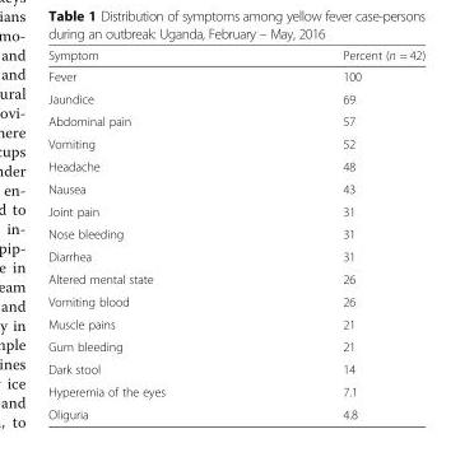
<table><thead><tr><td>Symptom</td><td>Percent (n = 42)</td></tr></thead><tbody><tr><td>Fever</td><td>100</td></tr><tr><td>Jaundice</td><td>69</td></tr><tr><td>Abdominal pain</td><td>57</td></tr><tr><td>Vomiting</td><td>52</td></tr><tr><td>Headache</td><td>48</td></tr><tr><td>Nausea</td><td>43</td></tr><tr><td>Joint pain</td><td>31</td></tr><tr><td>Nose bleeding</td><td>31</td></tr><tr><td>Diarrhea</td><td>31</td></tr><tr><td>Altered mental state</td><td>26</td></tr><tr><td>Vomiting blood</td><td>26</td></tr><tr><td>Muscle pains</td><td>21</td></tr><tr><td>Gum bleeding</td><td>21</td></tr><tr><td>Dark stool</td><td>14</td></tr><tr><td>Hyperemia of the eyes</td><td>7.1</td></tr><tr><td>Oliguria</td><td>4.8</td></tr></tbody></table>